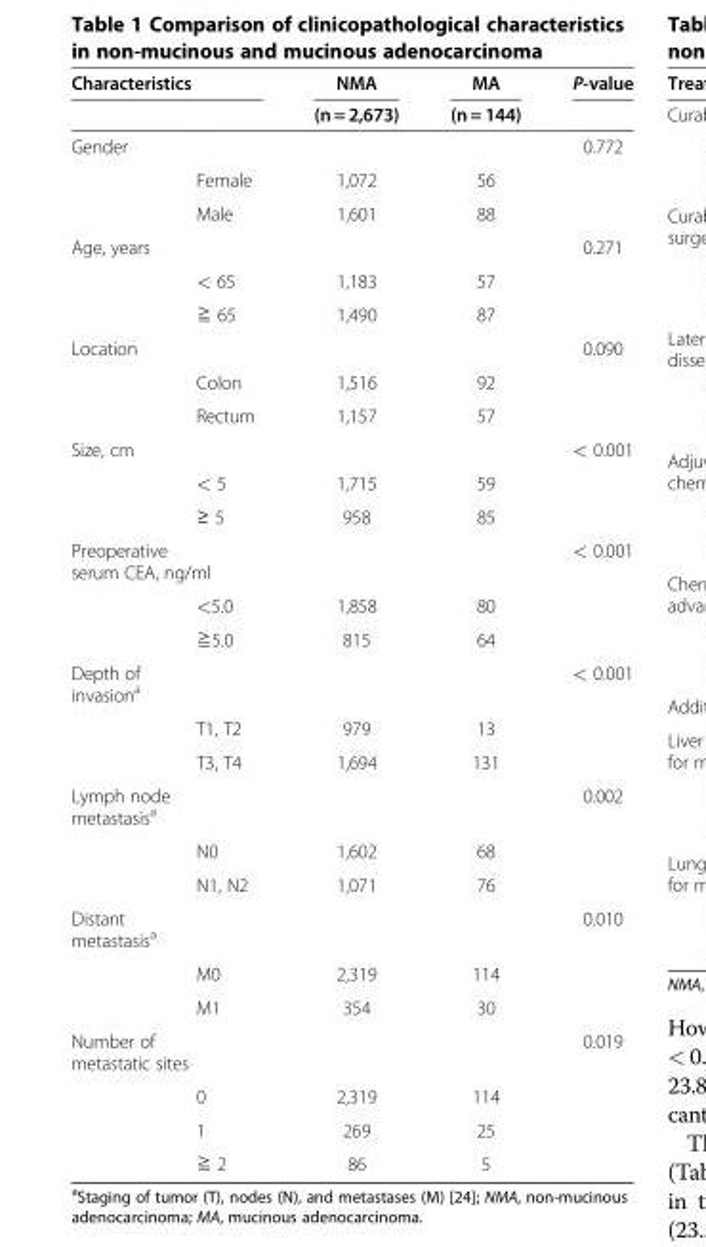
<table><thead><tr><td colspan="2">Characteristics</td><td rowspan="2">NMA (n = 2,673)</td><td rowspan="2">MA (n = 144)</td><td rowspan="2">P-value</td></tr><tr><td></td><td></td></tr></thead><tbody><tr><td rowspan="3">Gender</td><td></td><td></td><td></td><td>0.772</td></tr><tr><td>Female</td><td>1,072</td><td>56</td><td></td></tr><tr><td>Male</td><td>1,601</td><td>88</td><td></td></tr><tr><td colspan="2">Age, years</td><td></td><td></td><td>0.271</td></tr><tr><td></td><td>&lt; 65</td><td>1,183</td><td>57</td><td></td></tr><tr><td></td><td>≧ 65</td><td>1,490</td><td>87</td><td></td></tr><tr><td rowspan="3">Location</td><td></td><td></td><td></td><td>0.090</td></tr><tr><td>Colon</td><td>1,516</td><td>92</td><td></td></tr><tr><td>Rectum</td><td>1,157</td><td>57</td><td></td></tr><tr><td rowspan="3">Size, cm</td><td></td><td></td><td></td><td>&lt; 0.001</td></tr><tr><td>&lt; 5</td><td>1,715</td><td>59</td><td></td></tr><tr><td>≥ 5</td><td>958</td><td>85</td><td></td></tr><tr><td colspan="2">Preoperative serum CEA, ng/ml</td><td></td><td></td><td>&lt; 0.001</td></tr><tr><td></td><td>&lt;5.0</td><td>1,858</td><td>80</td><td></td></tr><tr><td></td><td>≧5.0</td><td>815</td><td>64</td><td></td></tr><tr><td colspan="2">Depth of invasion<sup>a</sup></td><td></td><td></td><td>&lt; 0.001</td></tr><tr><td></td><td>T1, T2</td><td>979</td><td>13</td><td></td></tr><tr><td></td><td>T3, T4</td><td>1,694</td><td>131</td><td></td></tr><tr><td colspan="2">Lymph node metastasis<sup>a</sup></td><td></td><td></td><td>0.002</td></tr><tr><td></td><td>N0</td><td>1,602</td><td>68</td><td></td></tr><tr><td></td><td>N1, N2</td><td>1,071</td><td>76</td><td></td></tr><tr><td colspan="2">Distant metastasis<sup>a</sup></td><td></td><td></td><td>0.010</td></tr><tr><td></td><td>M0</td><td>2,319</td><td>114</td><td></td></tr><tr><td></td><td>M1</td><td>354</td><td>30</td><td></td></tr><tr><td colspan="2">Number of metastatic sites</td><td></td><td></td><td>0.019</td></tr><tr><td></td><td>0</td><td>2,319</td><td>114</td><td></td></tr><tr><td></td><td>1</td><td>269</td><td>25</td><td></td></tr><tr><td></td><td>≧ 2</td><td>86</td><td>5</td><td></td></tr></tbody></table>